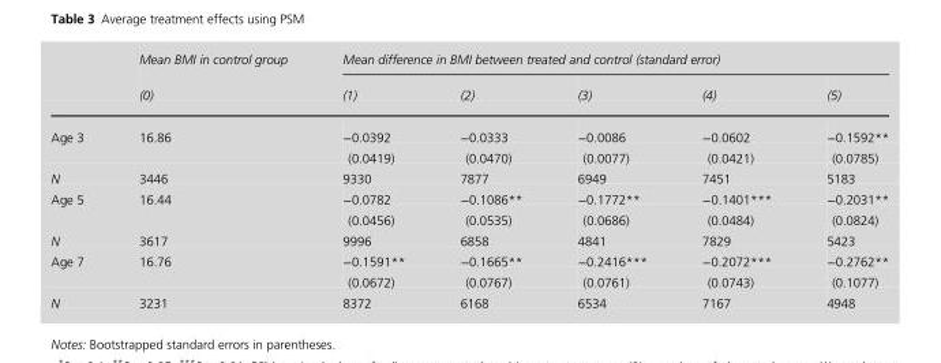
<table><thead><tr><td rowspan="2"></td><td rowspan="2">Mean BMI in control group (0)</td><td colspan="5">Mean difference in BMI between treated and control (standard error)</td></tr><tr><td>(1)</td><td>(2)</td><td>(3)</td><td>(4)</td><td>(5)</td></tr></thead><tbody><tr><td rowspan="2">Age 3</td><td rowspan="2">16.86</td><td>−0.0392</td><td>−0.0333</td><td>−0.0086</td><td>−0.0602</td><td>−0.1592**</td></tr><tr><td>(0.0419)</td><td>(0.0470)</td><td>(0.0077)</td><td>(0.0421)</td><td>(0.0785)</td></tr><tr><td>N</td><td>3446</td><td>9330</td><td>7877</td><td>6949</td><td>7451</td><td>5183</td></tr><tr><td rowspan="2">Age 5</td><td rowspan="2">16.44</td><td>−0.0782</td><td>−0.1086**</td><td>−0.1772**</td><td>−0.1401***</td><td>−0.2031**</td></tr><tr><td>(0.0456)</td><td>(0.0535)</td><td>(0.0686)</td><td>(0.0484)</td><td>(0.0824)</td></tr><tr><td>N</td><td>3617</td><td>9996</td><td>6858</td><td>4841</td><td>7829</td><td>5423</td></tr><tr><td rowspan="2">Age 7</td><td rowspan="2">16.76</td><td>−0.1591**</td><td>−0.1665**</td><td>−0.2416***</td><td>−0.2072***</td><td>−0.2762**</td></tr><tr><td>(0.0672)</td><td>(0.0767)</td><td>(0.0761)</td><td>(0.0743)</td><td>(0.1077)</td></tr><tr><td>N</td><td>3231</td><td>8372</td><td>6168</td><td>6534</td><td>7167</td><td>4948</td></tr></tbody></table>